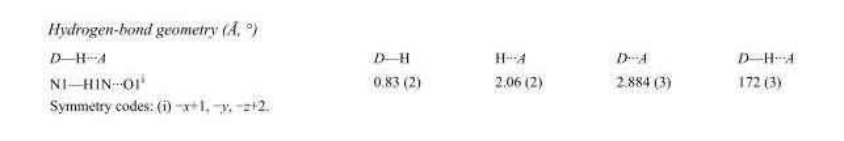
<table><tbody><tr><td>D—H···A</td><td>D—H</td><td>H···A</td><td>D···A</td><td>D—H···A</td></tr><tr><td>N1—H1N···O1<sup>i</sup></td><td>0.83 (2)</td><td>2.06 (2)</td><td>2.884 (3)</td><td>172 (3)</td></tr></tbody></table>